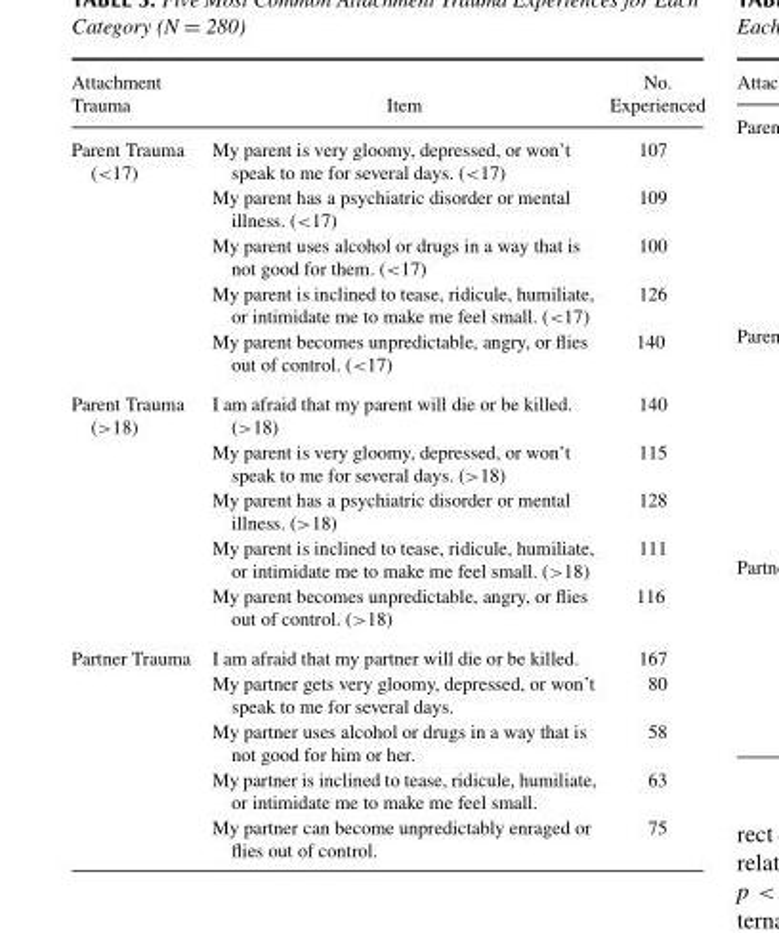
<table><thead><tr><td>Attachment Trauma</td><td>Item</td><td>No. Experienced</td></tr></thead><tbody><tr><td rowspan="5">Parent Trauma (&lt;17)</td><td>My parent is very gloomy, depressed, or won’t speak to me for several days. (&lt;17)</td><td>107</td></tr><tr><td>My parent has a psychiatric disorder or mental illness. (&lt;17)</td><td>109</td></tr><tr><td>My parent uses alcohol or drugs in a way that is not good for them. (&lt;17)</td><td>100</td></tr><tr><td>My parent is inclined to tease, ridicule, humiliate, or intimidate me to make me feel small. (&lt;17)</td><td>126</td></tr><tr><td>My parent becomes unpredictable, angry, or flies out of control. (&lt;17)</td><td>140</td></tr><tr><td rowspan="5">Parent Trauma (&gt;18)</td><td>I am afraid that my parent will die or be killed. (&gt;18)</td><td>140</td></tr><tr><td>My parent is very gloomy, depressed, or won’t speak to me for several days. (&gt;18)</td><td>115</td></tr><tr><td>My parent has a psychiatric disorder or mental illness. (&gt;18)</td><td>128</td></tr><tr><td>My parent is inclined to tease, ridicule, humiliate, or intimidate me to make me feel small. (&gt;18)</td><td>111</td></tr><tr><td>My parent becomes unpredictable, angry, or flies out of control. (&gt;18)</td><td>116</td></tr><tr><td rowspan="5">Partner Trauma</td><td>I am afraid that my partner will die or be killed.</td><td>167</td></tr><tr><td>My partner gets very gloomy, depressed, or won’t speak to me for several days.</td><td>80</td></tr><tr><td>My partner uses alcohol or drugs in a way that is not good for him or her.</td><td>58</td></tr><tr><td>My partner is inclined to tease, ridicule, humiliate, or intimidate me to make me feel small.</td><td>63</td></tr><tr><td>My partner can become unpredictably enraged or flies out of control.</td><td>75</td></tr></tbody></table>